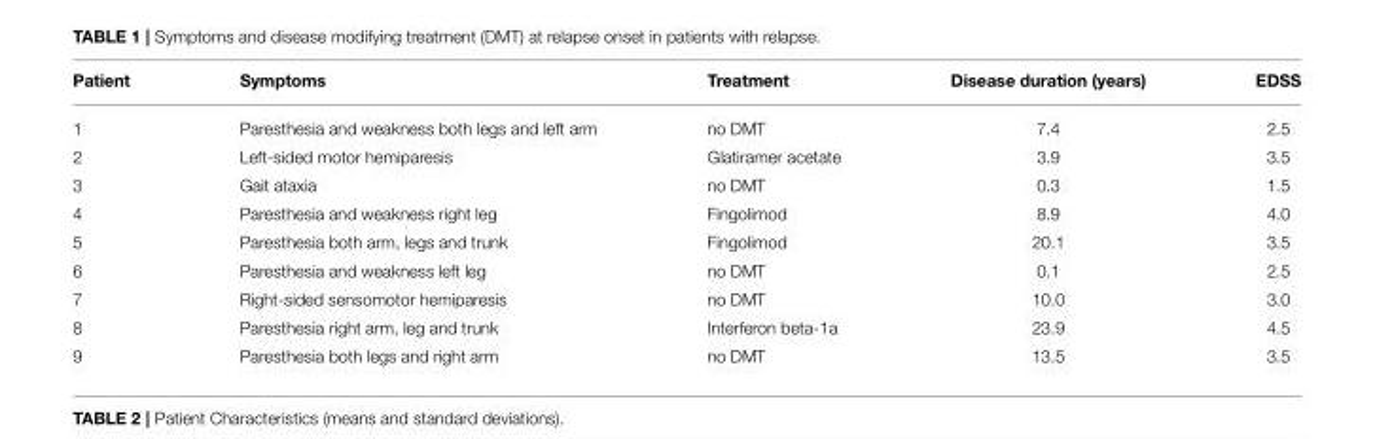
<table><thead><tr><td>Patient</td><td>Symptoms</td><td>Treatment</td><td>Disease duration (years)</td><td>EDSS</td></tr></thead><tbody><tr><td>1</td><td>Paresthesia and weakness both legs and left arm</td><td>no DMT</td><td>7.4</td><td>2.5</td></tr><tr><td>2</td><td>Left-sided motor hemiparesis</td><td>Glatiramer acetate</td><td>3.9</td><td>3.5</td></tr><tr><td>3</td><td>Gait ataxia</td><td>no DMT</td><td>0.3</td><td>1.5</td></tr><tr><td>4</td><td>Paresthesia and weakness right leg</td><td>Fingolimod</td><td>8.9</td><td>4.0</td></tr><tr><td>5</td><td>Paresthesia both arm, legs and trunk</td><td>Fingolimod</td><td>20.1</td><td>3.5</td></tr><tr><td>6</td><td>Paresthesia and weakness left leg</td><td>no DMT</td><td>0.1</td><td>2.5</td></tr><tr><td>7</td><td>Right-sided sensomotor hemiparesis</td><td>no DMT</td><td>10.0</td><td>3.0</td></tr><tr><td>8</td><td>Paresthesia right arm, leg and trunk</td><td>Interferon beta-1a</td><td>23.9</td><td>4.5</td></tr><tr><td>9</td><td>Paresthesia both legs and right arm</td><td>no DMT</td><td>13.5</td><td>3.5</td></tr></tbody></table>